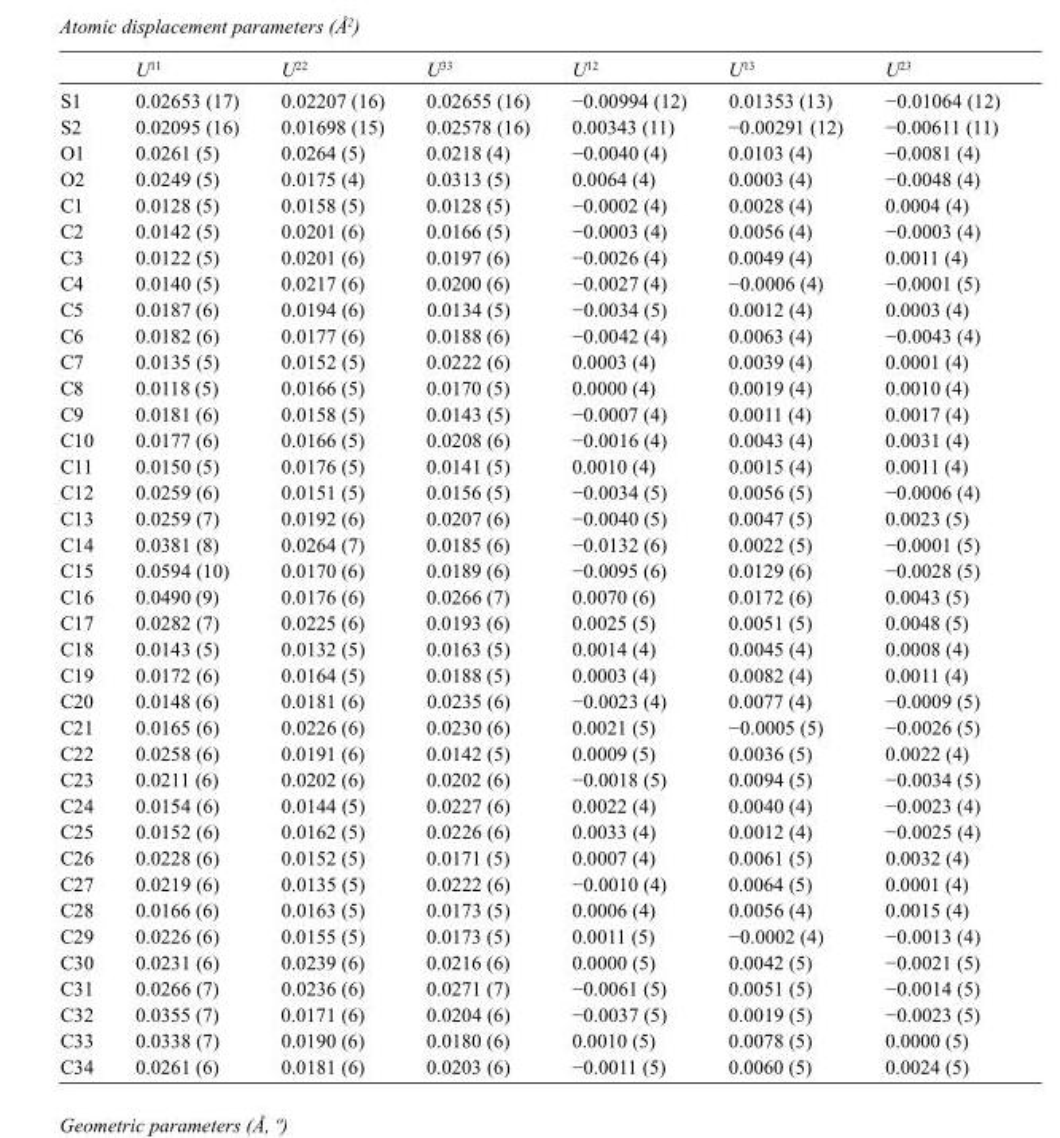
<table><thead><tr><td></td><td>U<sup>11</sup></td><td>U<sup>22</sup></td><td>U<sup>33</sup></td><td>U<sup>12</sup></td><td>U<sup>13</sup></td><td>U<sup>23</sup></td></tr></thead><tbody><tr><td>S1</td><td>0.02653 (17)</td><td>0.02207 (16)</td><td>0.02655 (16)</td><td>−0.00994 (12)</td><td>0.01353 (13)</td><td>−0.01064 (12)</td></tr><tr><td>S2</td><td>0.02095 (16)</td><td>0.01698 (15)</td><td>0.02578 (16)</td><td>0.00343 (11)</td><td>−0.00291 (12)</td><td>−0.00611 (11)</td></tr><tr><td>O1</td><td>0.0261 (5)</td><td>0.0264 (5)</td><td>0.0218 (4)</td><td>−0.0040 (4)</td><td>0.0103 (4)</td><td>−0.0081 (4)</td></tr><tr><td>O2</td><td>0.0249 (5)</td><td>0.0175 (4)</td><td>0.0313 (5)</td><td>0.0064 (4)</td><td>0.0003 (4)</td><td>−0.0048 (4)</td></tr><tr><td>C1</td><td>0.0128 (5)</td><td>0.0158 (5)</td><td>0.0128 (5)</td><td>−0.0002 (4)</td><td>0.0028 (4)</td><td>0.0004 (4)</td></tr><tr><td>C2</td><td>0.0142 (5)</td><td>0.0201 (6)</td><td>0.0166 (5)</td><td>−0.0003 (4)</td><td>0.0056 (4)</td><td>−0.0003 (4)</td></tr><tr><td>C3</td><td>0.0122 (5)</td><td>0.0201 (6)</td><td>0.0197 (6)</td><td>−0.0026 (4)</td><td>0.0049 (4)</td><td>0.0011 (4)</td></tr><tr><td>C4</td><td>0.0140 (5)</td><td>0.0217 (6)</td><td>0.0200 (6)</td><td>−0.0027 (4)</td><td>−0.0006 (4)</td><td>−0.0001 (5)</td></tr><tr><td>C5</td><td>0.0187 (6)</td><td>0.0194 (6)</td><td>0.0134 (5)</td><td>−0.0034 (5)</td><td>0.0012 (4)</td><td>0.0003 (4)</td></tr><tr><td>C6</td><td>0.0182 (6)</td><td>0.0177 (6)</td><td>0.0188 (6)</td><td>−0.0042 (4)</td><td>0.0063 (4)</td><td>−0.0043 (4)</td></tr><tr><td>C7</td><td>0.0135 (5)</td><td>0.0152 (5)</td><td>0.0222 (6)</td><td>0.0003 (4)</td><td>0.0039 (4)</td><td>0.0001 (4)</td></tr><tr><td>C8</td><td>0.0118 (5)</td><td>0.0166 (5)</td><td>0.0170 (5)</td><td>0.0000 (4)</td><td>0.0019 (4)</td><td>0.0010 (4)</td></tr><tr><td>C9</td><td>0.0181 (6)</td><td>0.0158 (5)</td><td>0.0143 (5)</td><td>−0.0007 (4)</td><td>0.0011 (4)</td><td>0.0017 (4)</td></tr><tr><td>C10</td><td>0.0177 (6)</td><td>0.0166 (5)</td><td>0.0208 (6)</td><td>−0.0016 (4)</td><td>0.0043 (4)</td><td>0.0031 (4)</td></tr><tr><td>C11</td><td>0.0150 (5)</td><td>0.0176 (5)</td><td>0.0141 (5)</td><td>0.0010 (4)</td><td>0.0015 (4)</td><td>0.0011 (4)</td></tr><tr><td>C12</td><td>0.0259 (6)</td><td>0.0151 (5)</td><td>0.0156 (5)</td><td>−0.0034 (5)</td><td>0.0056 (5)</td><td>−0.0006 (4)</td></tr><tr><td>C13</td><td>0.0259 (7)</td><td>0.0192 (6)</td><td>0.0207 (6)</td><td>−0.0040 (5)</td><td>0.0047 (5)</td><td>0.0023 (5)</td></tr><tr><td>C14</td><td>0.0381 (8)</td><td>0.0264 (7)</td><td>0.0185 (6)</td><td>−0.0132 (6)</td><td>0.0022 (5)</td><td>−0.0001 (5)</td></tr><tr><td>C15</td><td>0.0594 (10)</td><td>0.0170 (6)</td><td>0.0189 (6)</td><td>−0.0095 (6)</td><td>0.0129 (6)</td><td>−0.0028 (5)</td></tr><tr><td>C16</td><td>0.0490 (9)</td><td>0.0176 (6)</td><td>0.0266 (7)</td><td>0.0070 (6)</td><td>0.0172 (6)</td><td>0.0043 (5)</td></tr><tr><td>C17</td><td>0.0282 (7)</td><td>0.0225 (6)</td><td>0.0193 (6)</td><td>0.0025 (5)</td><td>0.0051 (5)</td><td>0.0048 (5)</td></tr><tr><td>C18</td><td>0.0143 (5)</td><td>0.0132 (5)</td><td>0.0163 (5)</td><td>0.0014 (4)</td><td>0.0045 (4)</td><td>0.0008 (4)</td></tr><tr><td>C19</td><td>0.0172 (6)</td><td>0.0164 (5)</td><td>0.0188 (5)</td><td>0.0003 (4)</td><td>0.0082 (4)</td><td>0.0011 (4)</td></tr><tr><td>C20</td><td>0.0148 (6)</td><td>0.0181 (6)</td><td>0.0235 (6)</td><td>−0.0023 (4)</td><td>0.0077 (4)</td><td>−0.0009 (5)</td></tr><tr><td>C21</td><td>0.0165 (6)</td><td>0.0226 (6)</td><td>0.0230 (6)</td><td>0.0021 (5)</td><td>−0.0005 (5)</td><td>−0.0026 (5)</td></tr><tr><td>C22</td><td>0.0258 (6)</td><td>0.0191 (6)</td><td>0.0142 (5)</td><td>0.0009 (5)</td><td>0.0036 (5)</td><td>0.0022 (4)</td></tr><tr><td>C23</td><td>0.0211 (6)</td><td>0.0202 (6)</td><td>0.0202 (6)</td><td>−0.0018 (5)</td><td>0.0094 (5)</td><td>−0.0034 (5)</td></tr><tr><td>C24</td><td>0.0154 (6)</td><td>0.0144 (5)</td><td>0.0227 (6)</td><td>0.0022 (4)</td><td>0.0040 (4)</td><td>−0.0023 (4)</td></tr><tr><td>C25</td><td>0.0152 (6)</td><td>0.0162 (5)</td><td>0.0226 (6)</td><td>0.0033 (4)</td><td>0.0012 (4)</td><td>−0.0025 (4)</td></tr><tr><td>C26</td><td>0.0228 (6)</td><td>0.0152 (5)</td><td>0.0171 (5)</td><td>0.0007 (4)</td><td>0.0061 (5)</td><td>0.0032 (4)</td></tr><tr><td>C27</td><td>0.0219 (6)</td><td>0.0135 (5)</td><td>0.0222 (6)</td><td>−0.0010 (4)</td><td>0.0064 (5)</td><td>0.0001 (4)</td></tr><tr><td>C28</td><td>0.0166 (6)</td><td>0.0163 (5)</td><td>0.0173 (5)</td><td>0.0006 (4)</td><td>0.0056 (4)</td><td>0.0015 (4)</td></tr><tr><td>C29</td><td>0.0226 (6)</td><td>0.0155 (5)</td><td>0.0173 (5)</td><td>0.0011 (5)</td><td>−0.0002 (4)</td><td>−0.0013 (4)</td></tr><tr><td>C30</td><td>0.0231 (6)</td><td>0.0239 (6)</td><td>0.0216 (6)</td><td>0.0000 (5)</td><td>0.0042 (5)</td><td>−0.0021 (5)</td></tr><tr><td>C31</td><td>0.0266 (7)</td><td>0.0236 (6)</td><td>0.0271 (7)</td><td>−0.0061 (5)</td><td>0.0051 (5)</td><td>−0.0014 (5)</td></tr><tr><td>C32</td><td>0.0355 (7)</td><td>0.0171 (6)</td><td>0.0204 (6)</td><td>−0.0037 (5)</td><td>0.0019 (5)</td><td>−0.0023 (5)</td></tr><tr><td>C33</td><td>0.0338 (7)</td><td>0.0190 (6)</td><td>0.0180 (6)</td><td>0.0010 (5)</td><td>0.0078 (5)</td><td>0.0000 (5)</td></tr><tr><td>C34</td><td>0.0261 (6)</td><td>0.0181 (6)</td><td>0.0203 (6)</td><td>−0.0011 (5)</td><td>0.0060 (5)</td><td>0.0024 (5)</td></tr></tbody></table>